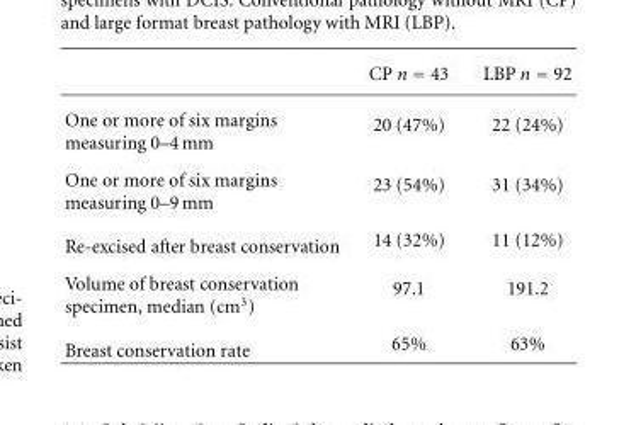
<table><thead><tr><td></td><td>CP n = 43</td><td>LBP n = 92</td></tr></thead><tbody><tr><td>One or more of six margins measuring 0–4 mm</td><td>20 (47%)</td><td>22 (24%)</td></tr><tr><td>One or more of six margins measuring 0–9 mm</td><td>23 (54%)</td><td>31 (34%)</td></tr><tr><td>Re-excised after breast conservation</td><td>14 (32%)</td><td>11 (12%)</td></tr><tr><td>Volume of breast conservation specimen, median (cm<sup>3</sup>)</td><td>97.1</td><td>191.2</td></tr><tr><td>Breast conservation rate</td><td>65%</td><td>63%</td></tr></tbody></table>